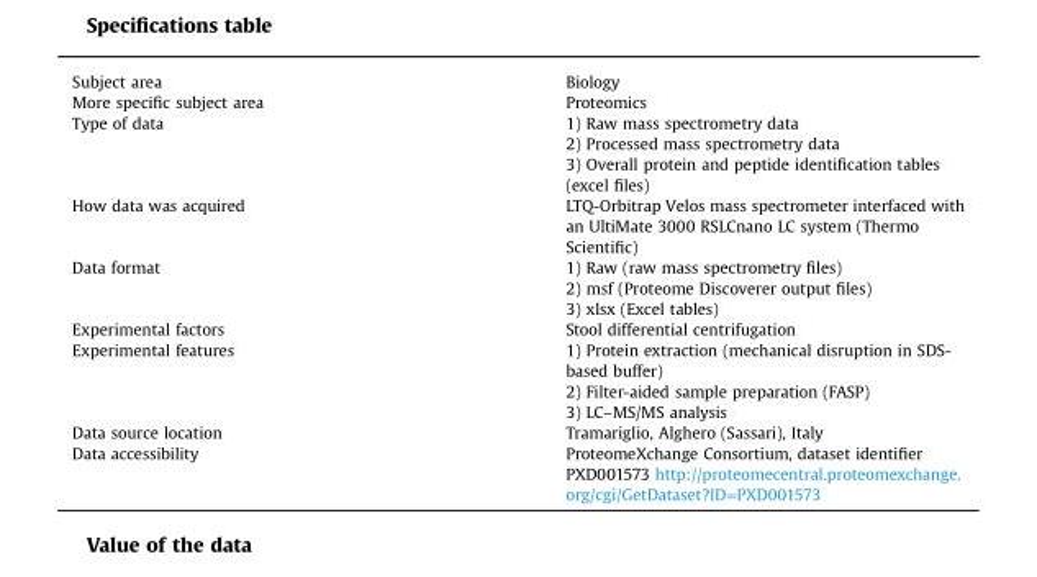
<table><tbody><tr><td>Subject area</td><td>Biology</td></tr><tr><td>More specific subject area</td><td>Proteomics</td></tr><tr><td rowspan="3">Type of data</td><td>1) Raw mass spectrometry data</td></tr><tr><td>2) Processed mass spectrometry data</td></tr><tr><td>3) Overall protein and peptide identification tables (excel files)</td></tr><tr><td>How data was acquired</td><td>LTQ-Orbitrap Velos mass spectrometer interfaced with an UltiMate 3000 RSLCnano LC system (Thermo Scientific)</td></tr><tr><td rowspan="3">Data format</td><td>1) Raw (raw mass spectrometry files)</td></tr><tr><td>2) msf (Proteome Discoverer output files)</td></tr><tr><td>3) xlsx (Excel tables)</td></tr><tr><td>Experimental factors</td><td>Stool differential centrifugation</td></tr><tr><td rowspan="3">Experimental features</td><td>1) Protein extraction (mechanical disruption in SDS- based buffer)</td></tr><tr><td>2) Filter-aided sample preparation (FASP)</td></tr><tr><td>3) LC–MS/MS analysis</td></tr><tr><td>Data source location</td><td>Tramariglio, Alghero (Sassari), Italy</td></tr><tr><td>Data accessibility</td><td>ProteomeXchange Consortium, dataset identifier PXD001573 http://proteomecentral.proteomexchange. org/cgi/GetDataset?ID=PXD001573</td></tr></tbody></table>